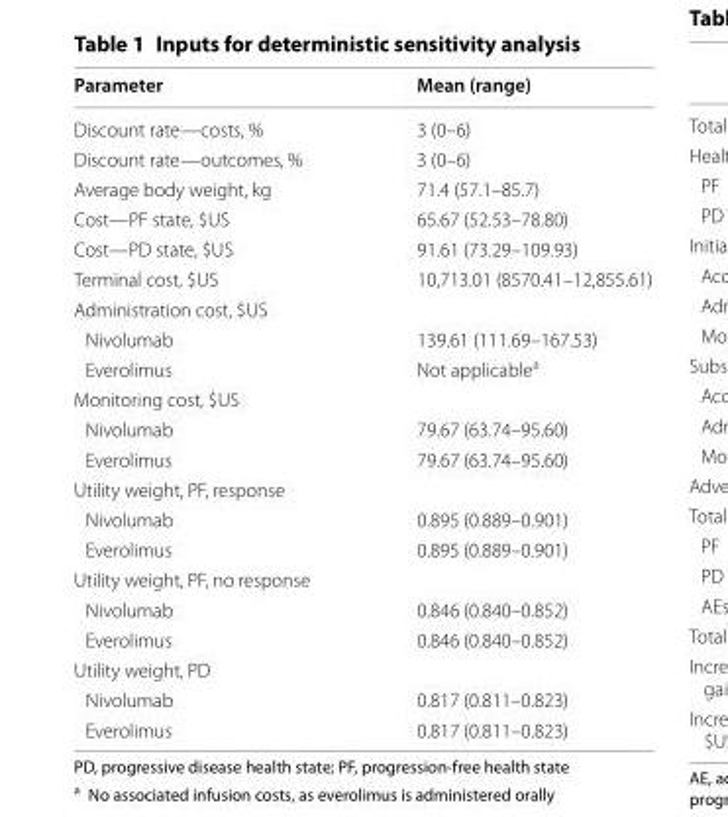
<table><thead><tr><td>Parameter</td><td>Mean (range)</td></tr></thead><tbody><tr><td>Discount rate—costs, %</td><td>3 (0–6)</td></tr><tr><td>Discount rate—outcomes, %</td><td>3 (0–6)</td></tr><tr><td>Average body weight, kg</td><td>71.4 (57.1–85.7)</td></tr><tr><td>Cost—PF state, $US</td><td>65.67 (52.53–78.80)</td></tr><tr><td>Cost—PD state, $US</td><td>91.61 (73.29–109.93)</td></tr><tr><td>Terminal cost, $US</td><td>10,713.01 (8570.41–12,855.61)</td></tr><tr><td colspan="2">Administration cost, $US</td></tr><tr><td>Nivolumab</td><td>139.61 (111.69–167.53)</td></tr><tr><td>Everolimus</td><td>Not applicable<sup>a</sup></td></tr><tr><td colspan="2">Monitoring cost, $US</td></tr><tr><td>Nivolumab</td><td>79.67 (63.74–95.60)</td></tr><tr><td>Everolimus</td><td>79.67 (63.74–95.60)</td></tr><tr><td colspan="2">Utility weight, PF, response</td></tr><tr><td>Nivolumab</td><td>0.895 (0.889–0.901)</td></tr><tr><td>Everolimus</td><td>0.895 (0.889–0.901)</td></tr><tr><td colspan="2">Utility weight, PF, no response</td></tr><tr><td>Nivolumab</td><td>0.846 (0.840–0.852)</td></tr><tr><td>Everolimus</td><td>0.846 (0.840–0.852)</td></tr><tr><td colspan="2">Utility weight, PD</td></tr><tr><td>Nivolumab</td><td>0.817 (0.811–0.823)</td></tr><tr><td>Everolimus</td><td>0.817 (0.811–0.823)</td></tr></tbody></table>